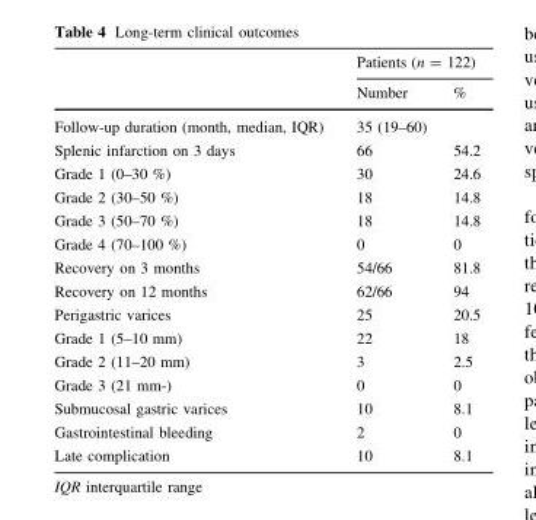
<table><thead><tr><td rowspan="2"></td><td colspan="2">Patients (n = 122)</td></tr><tr><td>Number</td><td>%</td></tr></thead><tbody><tr><td>Follow-up duration (month, median, IQR)</td><td colspan="2">35 (19–60)</td></tr><tr><td>Splenic infarction on 3 days</td><td>66</td><td>54.2</td></tr><tr><td>Grade 1 (0–30 %)</td><td>30</td><td>24.6</td></tr><tr><td>Grade 2 (30–50 %)</td><td>18</td><td>14.8</td></tr><tr><td>Grade 3 (50–70 %)</td><td>18</td><td>14.8</td></tr><tr><td>Grade 4 (70–100 %)</td><td>0</td><td>0</td></tr><tr><td>Recovery on 3 months</td><td>54/66</td><td>81.8</td></tr><tr><td>Recovery on 12 months</td><td>62/66</td><td>94</td></tr><tr><td>Perigastric varices</td><td>25</td><td>20.5</td></tr><tr><td>Grade 1 (5–10 mm)</td><td>22</td><td>18</td></tr><tr><td>Grade 2 (11–20 mm)</td><td>3</td><td>2.5</td></tr><tr><td>Grade 3 (21 mm-)</td><td>0</td><td>0</td></tr><tr><td>Submucosal gastric varices</td><td>10</td><td>8.1</td></tr><tr><td>Gastrointestinal bleeding</td><td>2</td><td>0</td></tr><tr><td>Late complication</td><td>10</td><td>8.1</td></tr></tbody></table>